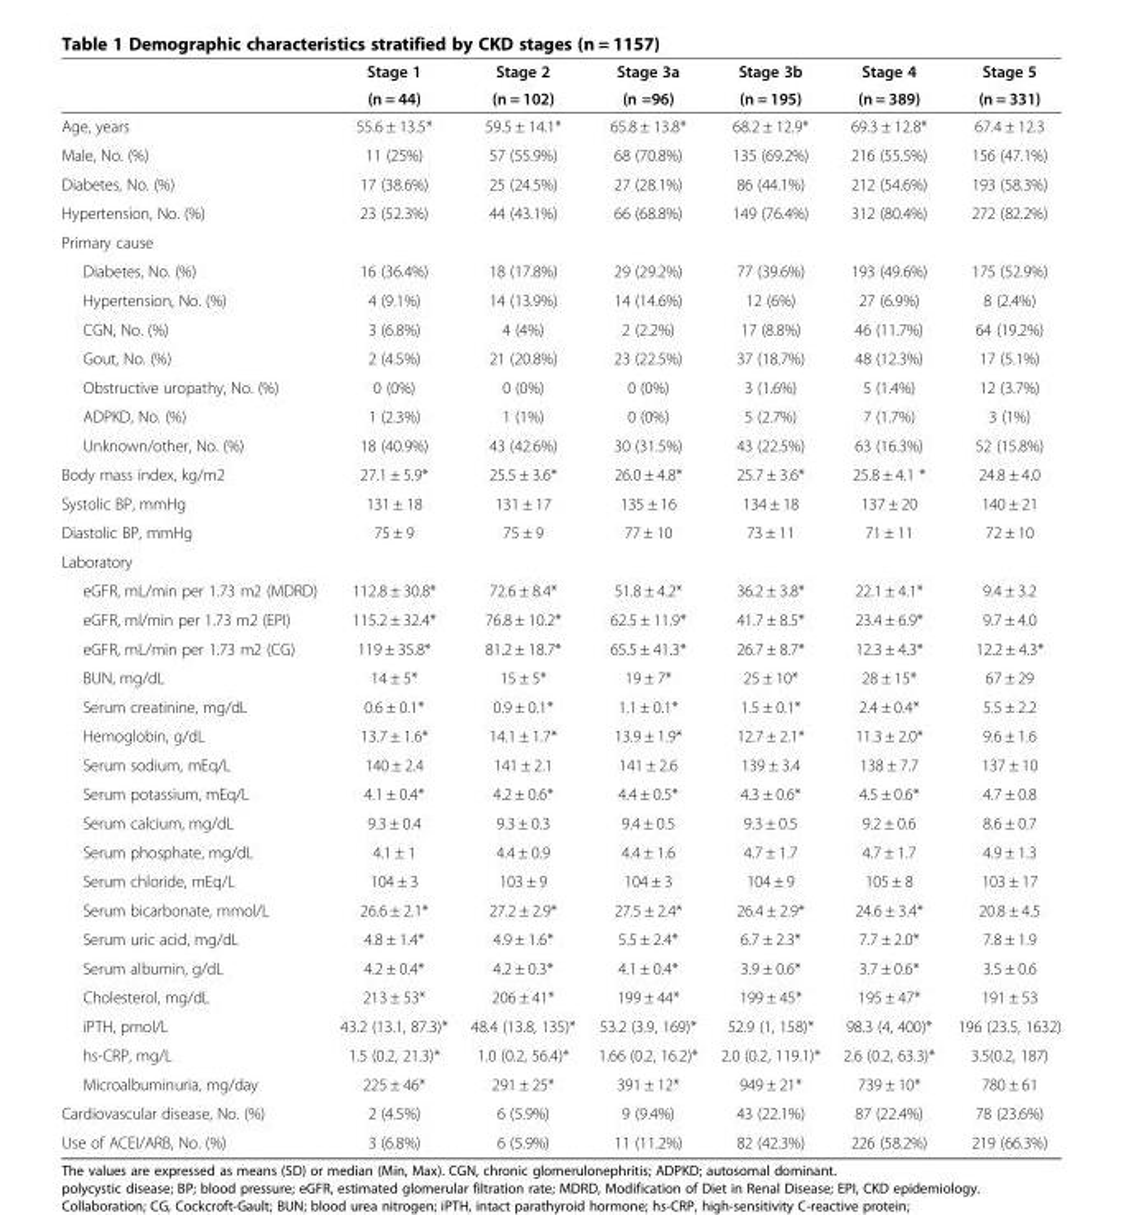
<table><thead><tr><td rowspan="2"></td><td rowspan="2">Stage 1 (n = 44)</td><td rowspan="2">Stage 2 (n = 102)</td><td rowspan="2">Stage 3a (n =96)</td><td rowspan="2">Stage 3b (n = 195)</td><td rowspan="2">Stage 4 (n = 389)</td><td rowspan="2">Stage 5 (n = 331)</td></tr><tr></tr></thead><tbody><tr><td>Age, years</td><td>55.6 ± 13.5*</td><td>59.5 ± 14.1*</td><td>65.8 ± 13.8*</td><td>68.2 ± 12.9*</td><td>69.3 ± 12.8*</td><td>67.4 ± 12.3</td></tr><tr><td>Male, No. (%)</td><td>11 (25%)</td><td>57 (55.9%)</td><td>68 (70.8%)</td><td>135 (69.2%)</td><td>216 (55.5%)</td><td>156 (47.1%)</td></tr><tr><td>Diabetes, No. (%)</td><td>17 (38.6%)</td><td>25 (24.5%)</td><td>27 (28.1%)</td><td>86 (44.1%)</td><td>212 (54.6%)</td><td>193 (58.3%)</td></tr><tr><td>Hypertension, No. (%)</td><td>23 (52.3%)</td><td>44 (43.1%)</td><td>66 (68.8%)</td><td>149 (76.4%)</td><td>312 (80.4%)</td><td>272 (82.2%)</td></tr><tr><td colspan="7">Primary cause</td></tr><tr><td>Diabetes, No. (%)</td><td>16 (36.4%)</td><td>18 (17.8%)</td><td>29 (29.2%)</td><td>77 (39.6%)</td><td>193 (49.6%)</td><td>175 (52.9%)</td></tr><tr><td>Hypertension, No. (%)</td><td>4 (9.1%)</td><td>14 (13.9%)</td><td>14 (14.6%)</td><td>12 (6%)</td><td>27 (6.9%)</td><td>8 (2.4%)</td></tr><tr><td>CGN, No. (%)</td><td>3 (6.8%)</td><td>4 (4%)</td><td>2 (2.2%)</td><td>17 (8.8%)</td><td>46 (11.7%)</td><td>64 (19.2%)</td></tr><tr><td>Gout, No. (%)</td><td>2 (4.5%)</td><td>21 (20.8%)</td><td>23 (22.5%)</td><td>37 (18.7%)</td><td>48 (12.3%)</td><td>17 (5.1%)</td></tr><tr><td>Obstructive uropathy, No. (%)</td><td>0 (0%)</td><td>0 (0%)</td><td>0 (0%)</td><td>3 (1.6%)</td><td>5 (1.4%)</td><td>12 (3.7%)</td></tr><tr><td>ADPKD, No. (%)</td><td>1 (2.3%)</td><td>1 (1%)</td><td>0 (0%)</td><td>5 (2.7%)</td><td>7 (1.7%)</td><td>3 (1%)</td></tr><tr><td>Unknown/other, No. (%)</td><td>18 (40.9%)</td><td>43 (42.6%)</td><td>30 (31.5%)</td><td>43 (22.5%)</td><td>63 (16.3%)</td><td>52 (15.8%)</td></tr><tr><td>Body mass index, kg/m2</td><td>27.1 ± 5.9*</td><td>25.5 ± 3.6*</td><td>26.0 ± 4.8*</td><td>25.7 ± 3.6*</td><td>25.8 ± 4.1 *</td><td>24.8 ± 4.0</td></tr><tr><td>Systolic BP, mmHg</td><td>131 ± 18</td><td>131 ± 17</td><td>135 ± 16</td><td>134 ± 18</td><td>137 ± 20</td><td>140 ± 21</td></tr><tr><td>Diastolic BP, mmHg</td><td>75 ± 9</td><td>75 ± 9</td><td>77 ± 10</td><td>73 ± 11</td><td>71 ± 11</td><td>72 ± 10</td></tr><tr><td colspan="7">Laboratory</td></tr><tr><td>eGFR, mL/min per 1.73 m2 (MDRD)</td><td>112.8 ± 30.8*</td><td>72.6 ± 8.4*</td><td>51.8 ± 4.2*</td><td>36.2 ± 3.8*</td><td>22.1 ± 4.1*</td><td>9.4 ± 3.2</td></tr><tr><td>eGFR, ml/min per 1.73 m2 (EPI)</td><td>115.2 ± 32.4*</td><td>76.8 ± 10.2*</td><td>62.5 ± 11.9*</td><td>41.7 ± 8.5*</td><td>23.4 ± 6.9*</td><td>9.7 ± 4.0</td></tr><tr><td>eGFR, mL/min per 1.73 m2 (CG)</td><td>119 ± 35.8*</td><td>81.2 ± 18.7*</td><td>65.5 ± 41.3*</td><td>26.7 ± 8.7*</td><td>12.3 ± 4.3*</td><td>12.2 ± 4.3*</td></tr><tr><td>BUN, mg/dL</td><td>14 ± 5*</td><td>15 ± 5*</td><td>19 ± 7*</td><td>25 ± 10*</td><td>28 ± 15*</td><td>67 ± 29</td></tr><tr><td>Serum creatinine, mg/dL</td><td>0.6 ± 0.1*</td><td>0.9 ± 0.1*</td><td>1.1 ± 0.1*</td><td>1.5 ± 0.1*</td><td>2.4 ± 0.4*</td><td>5.5 ± 2.2</td></tr><tr><td>Hemoglobin, g/dL</td><td>13.7 ± 1.6*</td><td>14.1 ± 1.7*</td><td>13.9 ± 1.9*</td><td>12.7 ± 2.1*</td><td>11.3 ± 2.0*</td><td>9.6 ± 1.6</td></tr><tr><td>Serum sodium, mEq/L</td><td>140 ± 2.4</td><td>141 ± 2.1</td><td>141 ± 2.6</td><td>139 ± 3.4</td><td>138 ± 7.7</td><td>137 ± 10</td></tr><tr><td>Serum potassium, mEq/L</td><td>4.1 ± 0.4*</td><td>4.2 ± 0.6*</td><td>4.4 ± 0.5*</td><td>4.3 ± 0.6*</td><td>4.5 ± 0.6*</td><td>4.7 ± 0.8</td></tr><tr><td>Serum calcium, mg/dL</td><td>9.3 ± 0.4</td><td>9.3 ± 0.3</td><td>9.4 ± 0.5</td><td>9.3 ± 0.5</td><td>9.2 ± 0.6</td><td>8.6 ± 0.7</td></tr><tr><td>Serum phosphate, mg/dL</td><td>4.1 ± 1</td><td>4.4 ± 0.9</td><td>4.4 ± 1.6</td><td>4.7 ± 1.7</td><td>4.7 ± 1.7</td><td>4.9 ± 1.3</td></tr><tr><td>Serum chloride, mEq/L</td><td>104 ± 3</td><td>103 ± 9</td><td>104 ± 3</td><td>104 ± 9</td><td>105 ± 8</td><td>103 ± 17</td></tr><tr><td>Serum bicarbonate, mmol/L</td><td>26.6 ± 2.1*</td><td>27.2 ± 2.9*</td><td>27.5 ± 2.4*</td><td>26.4 ± 2.9*</td><td>24.6 ± 3.4*</td><td>20.8 ± 4.5</td></tr><tr><td>Serum uric acid, mg/dL</td><td>4.8 ± 1.4*</td><td>4.9 ± 1.6*</td><td>5.5 ± 2.4*</td><td>6.7 ± 2.3*</td><td>7.7 ± 2.0*</td><td>7.8 ± 1.9</td></tr><tr><td>Serum albumin, g/dL</td><td>4.2 ± 0.4*</td><td>4.2 ± 0.3*</td><td>4.1 ± 0.4*</td><td>3.9 ± 0.6*</td><td>3.7 ± 0.6*</td><td>3.5 ± 0.6</td></tr><tr><td>Cholesterol, mg/dL</td><td>213 ± 53*</td><td>206 ± 41*</td><td>199 ± 44*</td><td>199 ± 45*</td><td>195 ± 47*</td><td>191 ± 53</td></tr><tr><td>iPTH, pmol/L</td><td>43.2 (13.1, 87.3)*</td><td>48.4 (13.8, 135)*</td><td>53.2 (3.9, 169)*</td><td>52.9 (1, 158)*</td><td>98.3 (4, 400)*</td><td>196 (23.5, 1632)</td></tr><tr><td>hs-CRP, mg/L</td><td>1.5 (0.2, 21.3)*</td><td>1.0 (0.2, 56.4)*</td><td>1.66 (0.2, 16.2)*</td><td>2.0 (0.2, 119.1)*</td><td>2.6 (0.2, 63.3)*</td><td>3.5(0.2, 187)</td></tr><tr><td>Microalbuminuria, mg/day</td><td>225 ± 46*</td><td>291 ± 25*</td><td>391 ± 12*</td><td>949 ± 21*</td><td>739 ± 10*</td><td>780 ± 61</td></tr><tr><td>Cardiovascular disease, No. (%)</td><td>2 (4.5%)</td><td>6 (5.9%)</td><td>9 (9.4%)</td><td>43 (22.1%)</td><td>87 (22.4%)</td><td>78 (23.6%)</td></tr><tr><td>Use of ACEI/ARB, No. (%)</td><td>3 (6.8%)</td><td>6 (5.9%)</td><td>11 (11.2%)</td><td>82 (42.3%)</td><td>226 (58.2%)</td><td>219 (66.3%)</td></tr></tbody></table>